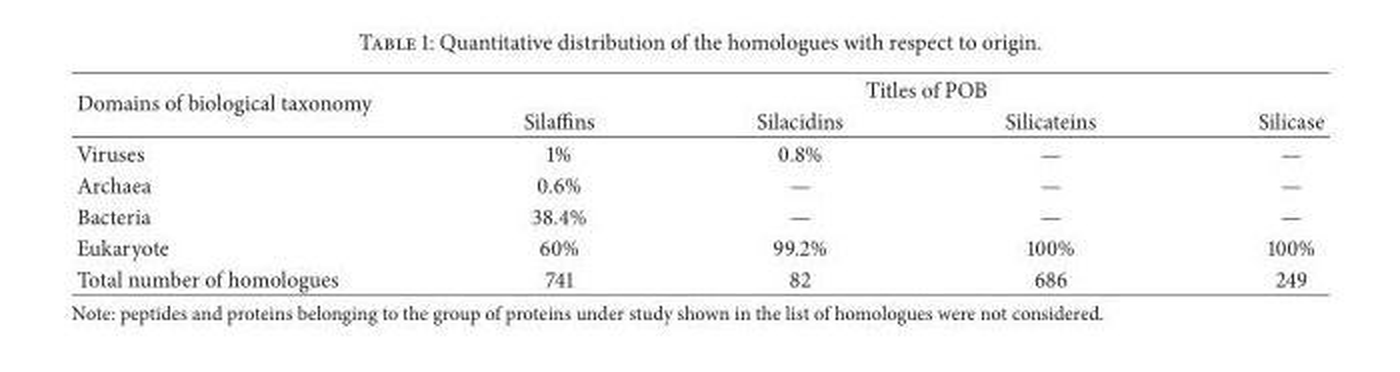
<table><thead><tr><td rowspan="2">Domains of biological taxonomy</td><td colspan="4">Titles of POB</td></tr><tr><td>Silaffins</td><td>Silacidins</td><td>Silicateins</td><td>Silicase</td></tr></thead><tbody><tr><td>Viruses</td><td>1%</td><td>0.8%</td><td>—</td><td>—</td></tr><tr><td>Archaea</td><td>0.6%</td><td>—</td><td>—</td><td>—</td></tr><tr><td>Bacteria</td><td>38.4%</td><td>—</td><td>—</td><td>—</td></tr><tr><td>Eukaryote</td><td>60%</td><td>99.2%</td><td>100%</td><td>100%</td></tr><tr><td>Total number of homologues</td><td>741</td><td>82</td><td>686</td><td>249</td></tr></tbody></table>